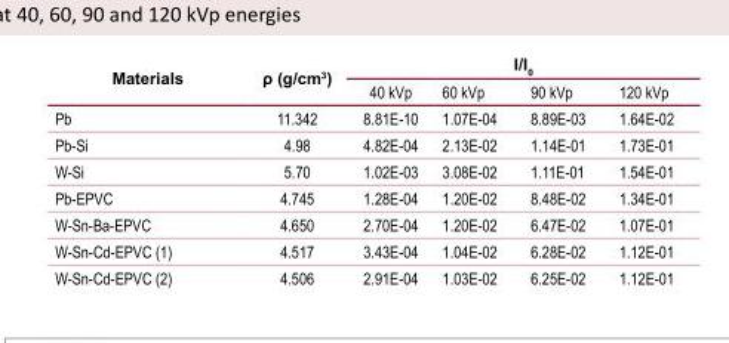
<table><thead><tr><td rowspan="2">Materials</td><td rowspan="2">ρ (g/cm<sup>3</sup>)</td><td colspan="4">I/I<sub>0</sub></td></tr><tr><td>40 kVp</td><td>60 kVp</td><td>90 kVp</td><td>120 kVp</td></tr></thead><tbody><tr><td>Pb</td><td>11.342</td><td>8.81E-10</td><td>1.07E-04</td><td>8.89E-03</td><td>1.64E-02</td></tr><tr><td>Pb-Si</td><td>4.98</td><td>4.82E-04</td><td>2.13E-02</td><td>1.14E-01</td><td>1.73E-01</td></tr><tr><td>W-Si</td><td>5.70</td><td>1.02E-03</td><td>3.08E-02</td><td>1.11E-01</td><td>1.54E-01</td></tr><tr><td>Pb-EPVC</td><td>4.745</td><td>1.28E-04</td><td>1.20E-02</td><td>8.48E-02</td><td>1.34E-01</td></tr><tr><td>W-Sn-Ba-EPVC</td><td>4.650</td><td>2.70E-04</td><td>1.20E-02</td><td>6.47E-02</td><td>1.07E-01</td></tr><tr><td>W-Sn-Cd-EPVC (1)</td><td>4.517</td><td>3.43E-04</td><td>1.04E-02</td><td>6.28E-02</td><td>1.12E-01</td></tr><tr><td>W-Sn-Cd-EPVC (2)</td><td>4.506</td><td>2.91E-04</td><td>1.03E-02</td><td>6.25E-02</td><td>1.12E-01</td></tr></tbody></table>